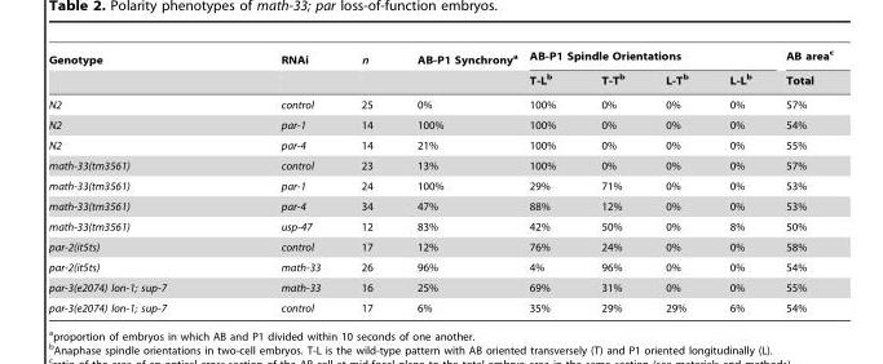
<table><thead><tr><td rowspan="2">Genotype</td><td rowspan="2">RNAi</td><td rowspan="2">n</td><td rowspan="2">AB-P1 Synchrony<sup>a</sup></td><td colspan="4">AB-P1 Spindle Orientations</td><td rowspan="2">AB area<sup>c</sup> Total</td></tr><tr><td>T-L<sup>b</sup></td><td>T-T<sup>b</sup></td><td>L-T<sup>b</sup></td><td>L-L<sup>b</sup></td></tr></thead><tbody><tr><td>N2</td><td>control</td><td>25</td><td>0%</td><td>100%</td><td>0%</td><td>0%</td><td>0%</td><td>57%</td></tr><tr><td>N2</td><td>par-1</td><td>14</td><td>100%</td><td>100%</td><td>0%</td><td>0%</td><td>0%</td><td>54%</td></tr><tr><td>N2</td><td>par-4</td><td>14</td><td>21%</td><td>100%</td><td>0%</td><td>0%</td><td>0%</td><td>55%</td></tr><tr><td>math-33(tm3561)</td><td>control</td><td>23</td><td>13%</td><td>100%</td><td>0%</td><td>0%</td><td>0%</td><td>57%</td></tr><tr><td>math-33(tm3561)</td><td>par-1</td><td>24</td><td>100%</td><td>29%</td><td>71%</td><td>0%</td><td>0%</td><td>53%</td></tr><tr><td>math-33(tm3561)</td><td>par-4</td><td>34</td><td>47%</td><td>88%</td><td>12%</td><td>0%</td><td>0%</td><td>53%</td></tr><tr><td>math-33(tm3561)</td><td>usp-47</td><td>12</td><td>83%</td><td>42%</td><td>50%</td><td>0%</td><td>8%</td><td>50%</td></tr><tr><td>par-2(it5ts)</td><td>control</td><td>17</td><td>12%</td><td>76%</td><td>24%</td><td>0%</td><td>0%</td><td>58%</td></tr><tr><td>par-2(it5ts)</td><td>math-33</td><td>26</td><td>96%</td><td>4%</td><td>96%</td><td>0%</td><td>0%</td><td>54%</td></tr><tr><td>par-3(e2074) lon-1; sup-7</td><td>math-33</td><td>16</td><td>25%</td><td>69%</td><td>31%</td><td>0%</td><td>0%</td><td>55%</td></tr><tr><td>par-3(e2074) lon-1; sup-7</td><td>control</td><td>17</td><td>6%</td><td>35%</td><td>29%</td><td>29%</td><td>6%</td><td>54%</td></tr></tbody></table>